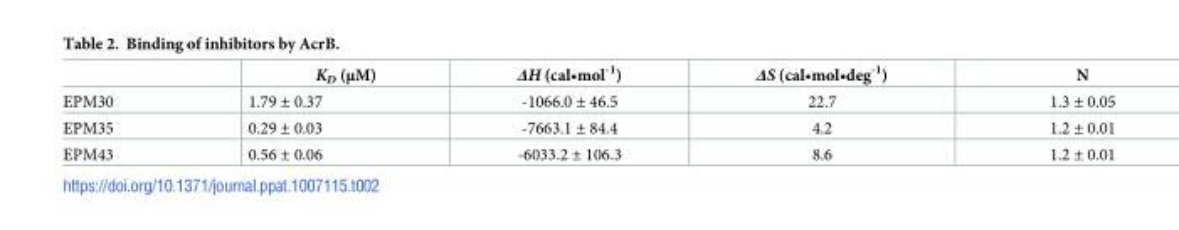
<table><thead><tr><td></td><td>K<sub>D</sub> (μM)</td><td>ΔH (cal•mol<sup>-1</sup>)</td><td>ΔS (cal•mol•deg<sup>-1</sup>)</td><td>N</td></tr></thead><tbody><tr><td>EPM30</td><td>1.79 ± 0.37</td><td>-1066.0 ± 46.5</td><td>22.7</td><td>1.3 ± 0.05</td></tr><tr><td>EPM35</td><td>0.29 ± 0.03</td><td>-7663.1 ± 84.4</td><td>4.2</td><td>1.2 ± 0.01</td></tr><tr><td>EPM43</td><td>0.56 ± 0.06</td><td>-6033.2 ± 106.3</td><td>8.6</td><td>1.2 ± 0.01</td></tr></tbody></table>